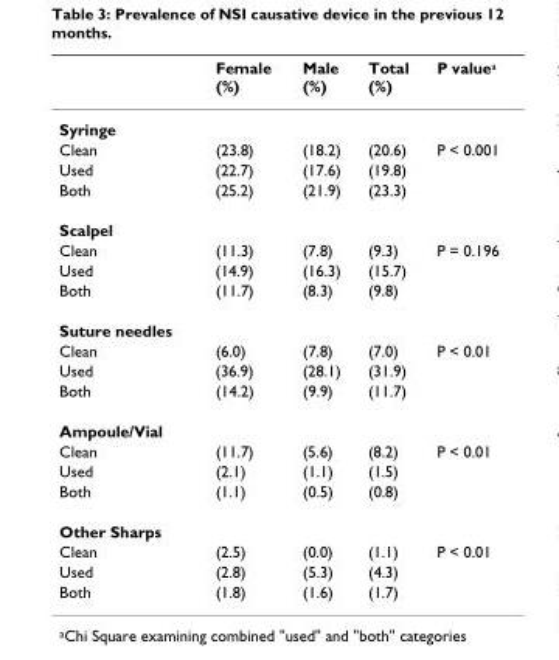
<table><thead><tr><td></td><td>Female (%)</td><td>Male (%)</td><td>Total (%)</td><td>P value<sup>a</sup></td></tr></thead><tbody><tr><td colspan="5">Syringe</td></tr><tr><td>Clean</td><td>(23.8)</td><td>(18.2)</td><td>(20.6)</td><td>P &lt; 0.001</td></tr><tr><td>Used</td><td>(22.7)</td><td>(17.6)</td><td>(19.8)</td><td></td></tr><tr><td>Both</td><td>(25.2)</td><td>(21.9)</td><td>(23.3)</td><td></td></tr><tr><td colspan="5">Scalpel</td></tr><tr><td>Clean</td><td>(11.3)</td><td>(7.8)</td><td>(9.3)</td><td>P = 0.196</td></tr><tr><td>Used</td><td>(14.9)</td><td>(16.3)</td><td>(15.7)</td><td></td></tr><tr><td>Both</td><td>(11.7)</td><td>(8.3)</td><td>(9.8)</td><td></td></tr><tr><td colspan="5">Suture needles</td></tr><tr><td>Clean</td><td>(6.0)</td><td>(7.8)</td><td>(7.0)</td><td>P &lt; 0.01</td></tr><tr><td>Used</td><td>(36.9)</td><td>(28.1)</td><td>(31.9)</td><td></td></tr><tr><td>Both</td><td>(14.2)</td><td>(9.9)</td><td>(11.7)</td><td></td></tr><tr><td colspan="5">Ampoule/Vial</td></tr><tr><td>Clean</td><td>(11.7)</td><td>(5.6)</td><td>(8.2)</td><td>P &lt; 0.01</td></tr><tr><td>Used</td><td>(2.1)</td><td>(1.1)</td><td>(1.5)</td><td></td></tr><tr><td>Both</td><td>(1.1)</td><td>(0.5)</td><td>(0.8)</td><td></td></tr><tr><td colspan="5">Other Sharps</td></tr><tr><td>Clean</td><td>(2.5)</td><td>(0.0)</td><td>(1.1)</td><td>P &lt; 0.01</td></tr><tr><td>Used</td><td>(2.8)</td><td>(5.3)</td><td>(4.3)</td><td></td></tr><tr><td>Both</td><td>(1.8)</td><td>(1.6)</td><td>(1.7)</td><td></td></tr></tbody></table>